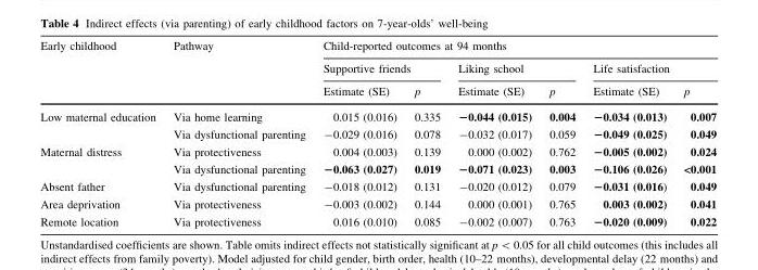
<table><thead><tr><td rowspan="3">Early childhood</td><td rowspan="3">Pathway</td><td colspan="6">Child-reported outcomes at 94 months</td></tr><tr><td colspan="2">Supportive friends</td><td colspan="2">Liking school</td><td colspan="2">Life satisfaction</td></tr><tr><td>Estimate (SE)</td><td>p</td><td>Estimate (SE)</td><td>p</td><td>Estimate (SE)</td><td>p</td></tr></thead><tbody><tr><td rowspan="2">Low maternal education</td><td>Via home learning</td><td>0.015 (0.016)</td><td>0.335</td><td>−0.044 (0.015)</td><td>0.004</td><td>−0.034 (0.013)</td><td>0.007</td></tr><tr><td>Via dysfunctional parenting</td><td>-0.029 (0.016)</td><td>0.078</td><td>-0.032 (0.017)</td><td>0.059</td><td>−0.049 (0.025)</td><td>0.049</td></tr><tr><td rowspan="2">Maternal distress</td><td>Via protectiveness</td><td>0.004 (0.003)</td><td>0.139</td><td>0.000 (0.002)</td><td>0.762</td><td>−0.005 (0.002)</td><td>0.024</td></tr><tr><td>Via dysfunctional parenting</td><td>−0.063 (0.027)</td><td>0.019</td><td>−0.071 (0.023)</td><td>0.003</td><td>−0.106 (0.026)</td><td>&lt;0.001</td></tr><tr><td>Absent father</td><td>Via dysfunctional parenting</td><td>-0.018 (0.012)</td><td>0.131</td><td>-0.020 (0.012)</td><td>0.079</td><td>−0.031 (0.016)</td><td>0.049</td></tr><tr><td>Area deprivation</td><td>Via protectiveness</td><td>-0.003 (0.002)</td><td>0.144</td><td>0.000 (0.001)</td><td>0.765</td><td>0.003 (0.002)</td><td>0.041</td></tr><tr><td>Remote location</td><td>Via protectiveness</td><td>0.016 (0.010)</td><td>0.085</td><td>-0.002 (0.007)</td><td>0.763</td><td>−0.020 (0.009)</td><td>0.022</td></tr></tbody></table>